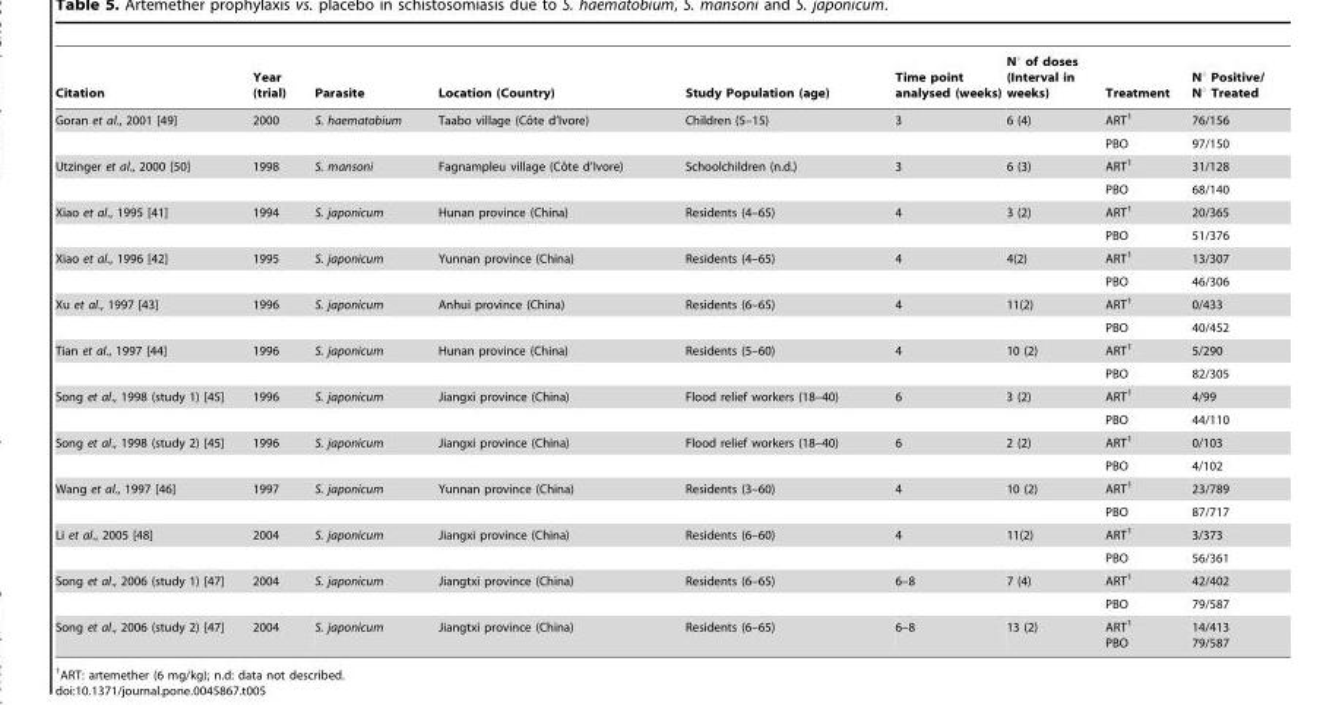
<table><thead><tr><td>Citation</td><td>Year (trial)</td><td>Parasite</td><td>Location (Country)</td><td>Study Population (age)</td><td>Time point analysed (weeks)</td><td>N° of doses (Interval in weeks)</td><td>Treatment</td><td>N° Positive/ N° Treated</td></tr></thead><tbody><tr><td rowspan="2">Goran et al., 2001 [49]</td><td>2000</td><td>S. haematobium</td><td>Taabo village (Coˆte d’Ivore)</td><td>Children (5–15)</td><td>3</td><td>6 (4)</td><td>ART<sup>1</sup></td><td>76/156</td></tr><tr><td></td><td></td><td></td><td></td><td></td><td></td><td>PBO</td><td>97/150</td></tr><tr><td rowspan="2">Utzinger et al., 2000 [50]</td><td>1998</td><td>S. mansoni</td><td>Fagnampleu village (Coˆte d’Ivore)</td><td>Schoolchildren (n.d.)</td><td>3</td><td>6 (3)</td><td>ART<sup>1</sup></td><td>31/128</td></tr><tr><td></td><td></td><td></td><td></td><td></td><td></td><td>PBO</td><td>68/140</td></tr><tr><td rowspan="2">Xiao et al., 1995 [41]</td><td>1994</td><td>S. japonicum</td><td>Hunan province (China)</td><td>Residents (4–65)</td><td>4</td><td>3 (2)</td><td>ART<sup>1</sup></td><td>20/365</td></tr><tr><td></td><td></td><td></td><td></td><td></td><td></td><td>PBO</td><td>51/376</td></tr><tr><td rowspan="2">Xiao et al., 1996 [42]</td><td>1995</td><td>S. japonicum</td><td>Yunnan province (China)</td><td>Residents (4–65)</td><td>4</td><td>4(2)</td><td>ART<sup>1</sup></td><td>13/307</td></tr><tr><td></td><td></td><td></td><td></td><td></td><td></td><td>PBO</td><td>46/306</td></tr><tr><td rowspan="2">Xu et al., 1997 [43]</td><td>1996</td><td>S. japonicum</td><td>Anhui province (China)</td><td>Residents (6–65)</td><td>4</td><td>11(2)</td><td>ART<sup>1</sup></td><td>0/433</td></tr><tr><td></td><td></td><td></td><td></td><td></td><td></td><td>PBO</td><td>40/452</td></tr><tr><td rowspan="2">Tian et al., 1997 [44]</td><td>1996</td><td>S. japonicum</td><td>Hunan province (China)</td><td>Residents (5–60)</td><td>4</td><td>10 (2)</td><td>ART<sup>1</sup></td><td>5/290</td></tr><tr><td></td><td></td><td></td><td></td><td></td><td></td><td>PBO</td><td>82/305</td></tr><tr><td rowspan="2">Song et al., 1998 (study 1) [45]</td><td>1996</td><td>S. japonicum</td><td>Jiangxi province (China)</td><td>Flood relief workers (18–40)</td><td>6</td><td>3 (2)</td><td>ART<sup>1</sup></td><td>4/99</td></tr><tr><td></td><td></td><td></td><td></td><td></td><td></td><td>PBO</td><td>44/110</td></tr><tr><td rowspan="2">Song et al., 1998 (study 2) [45]</td><td>1996</td><td>S. japonicum</td><td>Jiangxi province (China)</td><td>Flood relief workers (18–40)</td><td>6</td><td>2 (2)</td><td>ART<sup>1</sup></td><td>0/103</td></tr><tr><td></td><td></td><td></td><td></td><td></td><td></td><td>PBO</td><td>4/102</td></tr><tr><td rowspan="2">Wang et al., 1997 [46]</td><td>1997</td><td>S. japonicum</td><td>Yunnan province (China)</td><td>Residents (3–60)</td><td>4</td><td>10 (2)</td><td>ART<sup>1</sup></td><td>23/789</td></tr><tr><td></td><td></td><td></td><td></td><td></td><td></td><td>PBO</td><td>87/717</td></tr><tr><td rowspan="2">Li et al., 2005 [48]</td><td>2004</td><td>S. japonicum</td><td>Jiangxi province (China)</td><td>Residents (6–60)</td><td>4</td><td>11(2)</td><td>ART<sup>1</sup></td><td>3/373</td></tr><tr><td></td><td></td><td></td><td></td><td></td><td></td><td>PBO</td><td>56/361</td></tr><tr><td rowspan="2">Song et al., 2006 (study 1) [47]</td><td>2004</td><td>S. japonicum</td><td>Jiangtxi province (China)</td><td>Residents (6–65)</td><td>6–8</td><td>7 (4)</td><td>ART<sup>1</sup></td><td>42/402</td></tr><tr><td></td><td></td><td></td><td></td><td></td><td></td><td>PBO</td><td>79/587</td></tr><tr><td>Song et al., 2006 (study 2) [47]</td><td>2004</td><td>S. japonicum</td><td>Jiangtxi province (China)</td><td>Residents (6–65)</td><td>6–8</td><td>13 (2)</td><td>ART<sup>1</sup> PBO</td><td>14/413 79/587</td></tr></tbody></table>